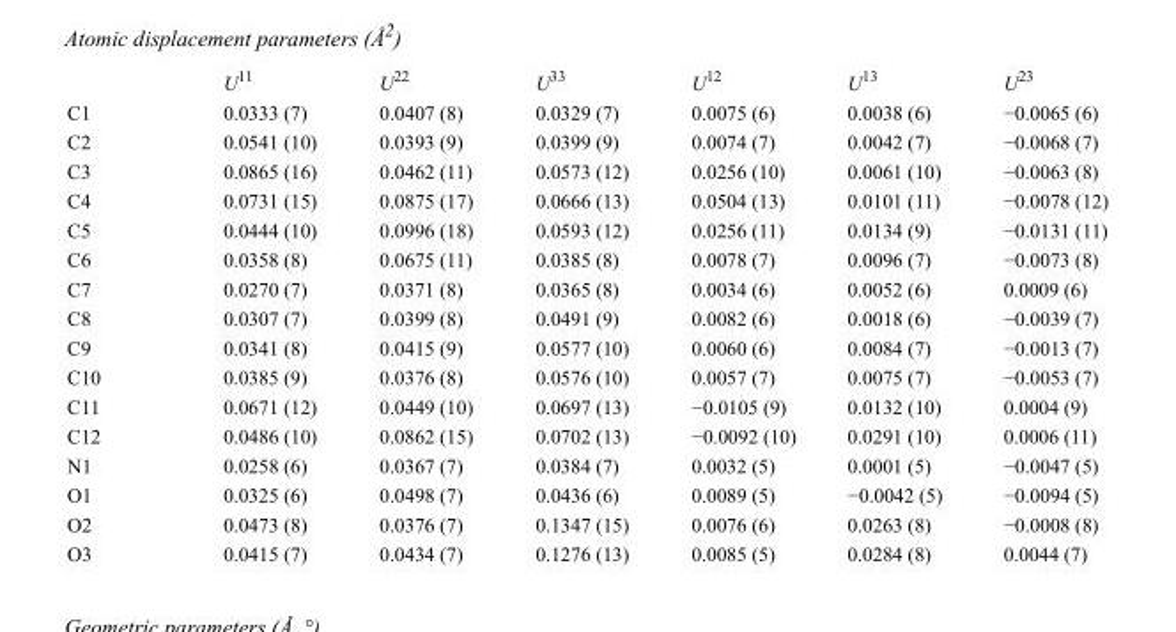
<table><thead><tr><td></td><td>U<sup>11</sup></td><td>U<sup>22</sup></td><td>U<sup>33</sup></td><td>U<sup>12</sup></td><td>U<sup>13</sup></td><td>U<sup>23</sup></td></tr></thead><tbody><tr><td>C1</td><td>0.0333 (7)</td><td>0.0407 (8)</td><td>0.0329 (7)</td><td>0.0075 (6)</td><td>0.0038 (6)</td><td>−0.0065 (6)</td></tr><tr><td>C2</td><td>0.0541 (10)</td><td>0.0393 (9)</td><td>0.0399 (9)</td><td>0.0074 (7)</td><td>0.0042 (7)</td><td>−0.0068 (7)</td></tr><tr><td>C3</td><td>0.0865 (16)</td><td>0.0462 (11)</td><td>0.0573 (12)</td><td>0.0256 (10)</td><td>0.0061 (10)</td><td>−0.0063 (8)</td></tr><tr><td>C4</td><td>0.0731 (15)</td><td>0.0875 (17)</td><td>0.0666 (13)</td><td>0.0504 (13)</td><td>0.0101 (11)</td><td>−0.0078 (12)</td></tr><tr><td>C5</td><td>0.0444 (10)</td><td>0.0996 (18)</td><td>0.0593 (12)</td><td>0.0256 (11)</td><td>0.0134 (9)</td><td>−0.0131 (11)</td></tr><tr><td>C6</td><td>0.0358 (8)</td><td>0.0675 (11)</td><td>0.0385 (8)</td><td>0.0078 (7)</td><td>0.0096 (7)</td><td>−0.0073 (8)</td></tr><tr><td>C7</td><td>0.0270 (7)</td><td>0.0371 (8)</td><td>0.0365 (8)</td><td>0.0034 (6)</td><td>0.0052 (6)</td><td>0.0009 (6)</td></tr><tr><td>C8</td><td>0.0307 (7)</td><td>0.0399 (8)</td><td>0.0491 (9)</td><td>0.0082 (6)</td><td>0.0018 (6)</td><td>−0.0039 (7)</td></tr><tr><td>C9</td><td>0.0341 (8)</td><td>0.0415 (9)</td><td>0.0577 (10)</td><td>0.0060 (6)</td><td>0.0084 (7)</td><td>−0.0013 (7)</td></tr><tr><td>C10</td><td>0.0385 (9)</td><td>0.0376 (8)</td><td>0.0576 (10)</td><td>0.0057 (7)</td><td>0.0075 (7)</td><td>−0.0053 (7)</td></tr><tr><td>C11</td><td>0.0671 (12)</td><td>0.0449 (10)</td><td>0.0697 (13)</td><td>−0.0105 (9)</td><td>0.0132 (10)</td><td>0.0004 (9)</td></tr><tr><td>C12</td><td>0.0486 (10)</td><td>0.0862 (15)</td><td>0.0702 (13)</td><td>−0.0092 (10)</td><td>0.0291 (10)</td><td>0.0006 (11)</td></tr><tr><td>N1</td><td>0.0258 (6)</td><td>0.0367 (7)</td><td>0.0384 (7)</td><td>0.0032 (5)</td><td>0.0001 (5)</td><td>−0.0047 (5)</td></tr><tr><td>O1</td><td>0.0325 (6)</td><td>0.0498 (7)</td><td>0.0436 (6)</td><td>0.0089 (5)</td><td>−0.0042 (5)</td><td>−0.0094 (5)</td></tr><tr><td>O2</td><td>0.0473 (8)</td><td>0.0376 (7)</td><td>0.1347 (15)</td><td>0.0076 (6)</td><td>0.0263 (8)</td><td>−0.0008 (8)</td></tr><tr><td>O3</td><td>0.0415 (7)</td><td>0.0434 (7)</td><td>0.1276 (13)</td><td>0.0085 (5)</td><td>0.0284 (8)</td><td>0.0044 (7)</td></tr></tbody></table>